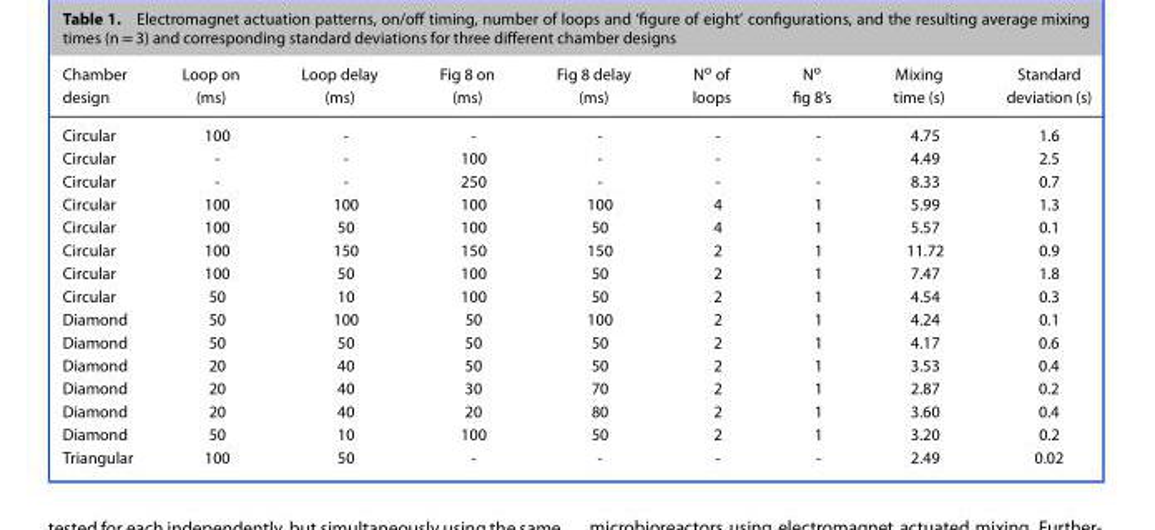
<table><thead><tr><td>Chamber design</td><td>Loop on (ms)</td><td>Loop delay (ms)</td><td>Fig 8 on (ms)</td><td>Fig 8 delay (ms)</td><td>N<sup>o</sup> of loops</td><td>N<sup>o</sup> fig 8’s</td><td>Mixing time (s)</td><td>Standard deviation (s)</td></tr></thead><tbody><tr><td>Circular</td><td>100</td><td>-</td><td>-</td><td>-</td><td>-</td><td>-</td><td>4.75</td><td>1.6</td></tr><tr><td>Circular</td><td>-</td><td>-</td><td>100</td><td>-</td><td>-</td><td>-</td><td>4.49</td><td>2.5</td></tr><tr><td>Circular</td><td>-</td><td>-</td><td>250</td><td>-</td><td>-</td><td>-</td><td>8.33</td><td>0.7</td></tr><tr><td>Circular</td><td>100</td><td>100</td><td>100</td><td>100</td><td>4</td><td>1</td><td>5.99</td><td>1.3</td></tr><tr><td>Circular</td><td>100</td><td>50</td><td>100</td><td>50</td><td>4</td><td>1</td><td>5.57</td><td>0.1</td></tr><tr><td>Circular</td><td>100</td><td>150</td><td>150</td><td>150</td><td>2</td><td>1</td><td>11.72</td><td>0.9</td></tr><tr><td>Circular</td><td>100</td><td>50</td><td>100</td><td>50</td><td>2</td><td>1</td><td>7.47</td><td>1.8</td></tr><tr><td>Circular</td><td>50</td><td>10</td><td>100</td><td>50</td><td>2</td><td>1</td><td>4.54</td><td>0.3</td></tr><tr><td>Diamond</td><td>50</td><td>100</td><td>50</td><td>100</td><td>2</td><td>1</td><td>4.24</td><td>0.1</td></tr><tr><td>Diamond</td><td>50</td><td>50</td><td>50</td><td>50</td><td>2</td><td>1</td><td>4.17</td><td>0.6</td></tr><tr><td>Diamond</td><td>20</td><td>40</td><td>50</td><td>50</td><td>2</td><td>1</td><td>3.53</td><td>0.4</td></tr><tr><td>Diamond</td><td>20</td><td>40</td><td>30</td><td>70</td><td>2</td><td>1</td><td>2.87</td><td>0.2</td></tr><tr><td>Diamond</td><td>20</td><td>40</td><td>20</td><td>80</td><td>2</td><td>1</td><td>3.60</td><td>0.4</td></tr><tr><td>Diamond</td><td>50</td><td>10</td><td>100</td><td>50</td><td>2</td><td>1</td><td>3.20</td><td>0.2</td></tr><tr><td>Triangular</td><td>100</td><td>50</td><td>-</td><td>-</td><td>-</td><td>-</td><td>2.49</td><td>0.02</td></tr></tbody></table>